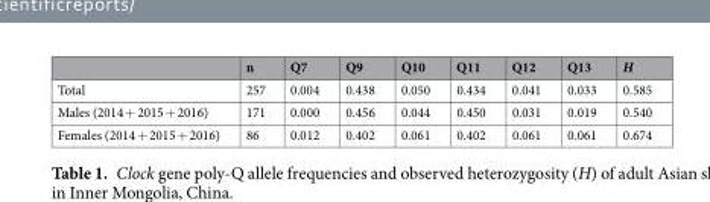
<table><thead><tr><td></td><td>n</td><td>Q7</td><td>Q9</td><td>Q10</td><td>Q11</td><td>Q12</td><td>Q13</td><td>H</td></tr></thead><tbody><tr><td>Total</td><td>257</td><td>0.004</td><td>0.438</td><td>0.050</td><td>0.434</td><td>0.041</td><td>0.033</td><td>0.585</td></tr><tr><td>Males (2014 + 2015 + 2016)</td><td>171</td><td>0.000</td><td>0.456</td><td>0.044</td><td>0.450</td><td>0.031</td><td>0.019</td><td>0.540</td></tr><tr><td>Females (2014 + 2015 + 2016)</td><td>86</td><td>0.012</td><td>0.402</td><td>0.061</td><td>0.402</td><td>0.061</td><td>0.061</td><td>0.674</td></tr></tbody></table>